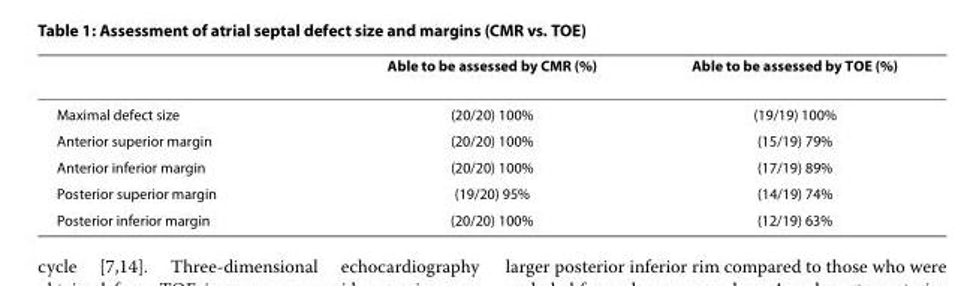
<table><thead><tr><td></td><td>Able to be assessed by CMR (%)</td><td>Able to be assessed by TOE (%)</td></tr></thead><tbody><tr><td>Maximal defect size</td><td>(20/20) 100%</td><td>(19/19) 100%</td></tr><tr><td>Anterior superior margin</td><td>(20/20) 100%</td><td>(15/19) 79%</td></tr><tr><td>Anterior inferior margin</td><td>(20/20) 100%</td><td>(17/19) 89%</td></tr><tr><td>Posterior superior margin</td><td>(19/20) 95%</td><td>(14/19) 74%</td></tr><tr><td>Posterior inferior margin</td><td>(20/20) 100%</td><td>(12/19) 63%</td></tr></tbody></table>